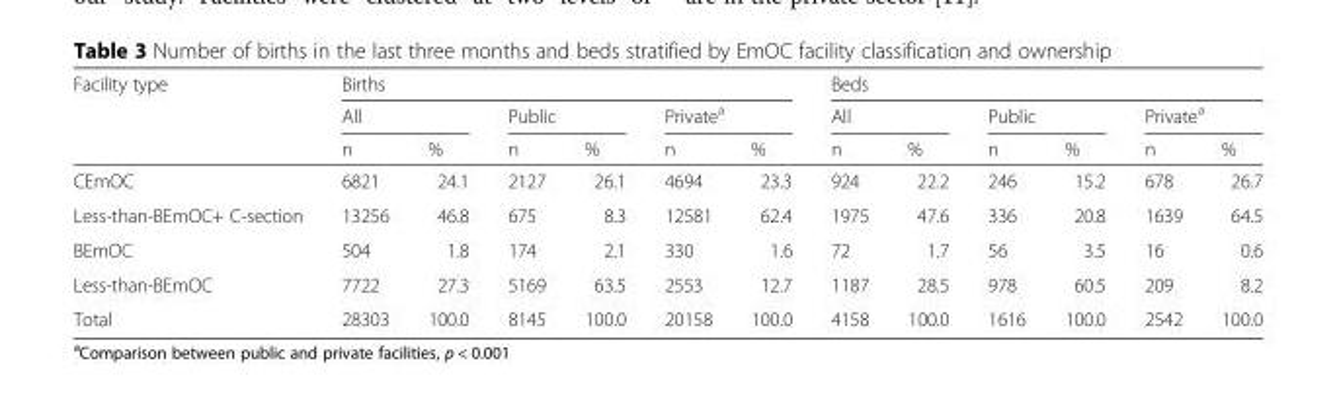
<table><thead><tr><td rowspan="3">Facility type</td><td colspan="6">Births</td><td colspan="6">Beds</td></tr><tr><td colspan="2">All</td><td colspan="2">Public</td><td colspan="2">Private<sup>a</sup></td><td colspan="2">All</td><td colspan="2">Public</td><td colspan="2">Private<sup>a</sup></td></tr><tr><td>n</td><td>%</td><td>n</td><td>%</td><td>n</td><td>%</td><td>n</td><td>%</td><td>n</td><td>%</td><td>n</td><td>%</td></tr></thead><tbody><tr><td>CEmOC</td><td>6821</td><td>24.1</td><td>2127</td><td>26.1</td><td>4694</td><td>23.3</td><td>924</td><td>22.2</td><td>246</td><td>15.2</td><td>678</td><td>26.7</td></tr><tr><td>Less-than-BEmOC+ C-section</td><td>13256</td><td>46.8</td><td>675</td><td>8.3</td><td>12581</td><td>62.4</td><td>1975</td><td>47.6</td><td>336</td><td>20.8</td><td>1639</td><td>64.5</td></tr><tr><td>BEmOC</td><td>504</td><td>1.8</td><td>174</td><td>2.1</td><td>330</td><td>1.6</td><td>72</td><td>1.7</td><td>56</td><td>3.5</td><td>16</td><td>0.6</td></tr><tr><td>Less-than-BEmOC</td><td>7722</td><td>27.3</td><td>5169</td><td>63.5</td><td>2553</td><td>12.7</td><td>1187</td><td>28.5</td><td>978</td><td>60.5</td><td>209</td><td>8.2</td></tr><tr><td>Total</td><td>28303</td><td>100.0</td><td>8145</td><td>100.0</td><td>20158</td><td>100.0</td><td>4158</td><td>100.0</td><td>1616</td><td>100.0</td><td>2542</td><td>100.0</td></tr></tbody></table>